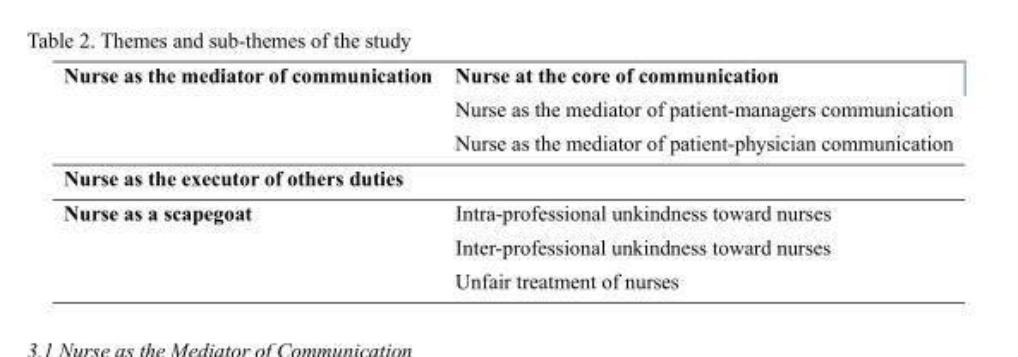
<table><tbody><tr><td rowspan="3">Nurse as the mediator of communication</td><td>Nurse at the core of communication</td></tr><tr><td>Nurse as the mediator of patient-managers communication</td></tr><tr><td>Nurse as the mediator of patient-physician communication</td></tr><tr><td colspan="2">Nurse as the executor of others duties</td></tr><tr><td rowspan="3">Nurse as a scapegoat</td><td>Intra-professional unkindness toward nurses</td></tr><tr><td>Inter-professional unkindness toward nurses</td></tr><tr><td>Unfair treatment of nurses</td></tr></tbody></table>